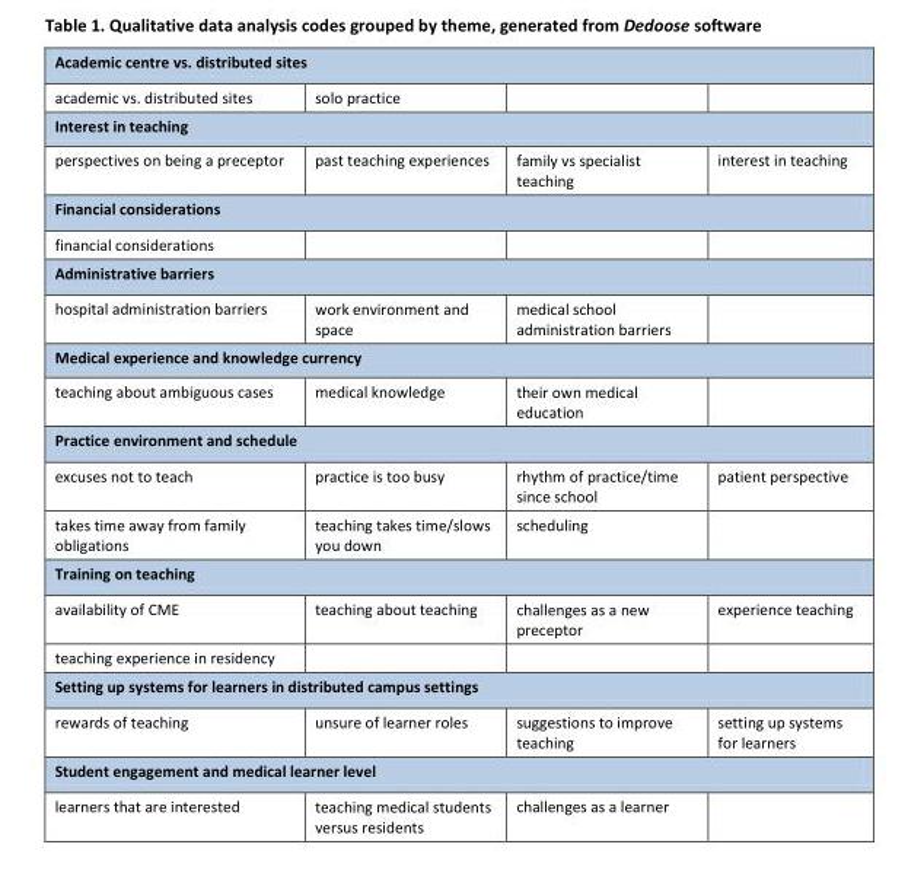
<table><tbody><tr><td colspan="4">Academic centre vs. distributed sites</td></tr><tr><td>academic vs. distributed sites</td><td>solo practice</td><td></td><td></td></tr><tr><td colspan="4">Interest in teaching</td></tr><tr><td>perspectives on being a preceptor</td><td>past teaching experiences</td><td>family vs specialist teaching</td><td>interest in teaching</td></tr><tr><td colspan="4">Financial considerations</td></tr><tr><td colspan="4">financial considerations</td></tr><tr><td colspan="4">Administrative barriers</td></tr><tr><td>hospital administration barriers</td><td>work environment and space</td><td>medical school administration barriers</td><td></td></tr><tr><td colspan="4">Medical experience and knowledge currency</td></tr><tr><td>teaching about ambiguous cases</td><td>medical knowledge</td><td>their own medical education</td><td></td></tr><tr><td colspan="4">Practice environment and schedule</td></tr><tr><td>excuses not to teach</td><td>practice is too busy</td><td>rhythm of practice/time since school</td><td>patient perspective</td></tr><tr><td>takes time away from family obligations</td><td>teaching takes time/slows you down</td><td>scheduling</td><td></td></tr><tr><td colspan="4">Training on teaching</td></tr><tr><td>availability of CME</td><td>teaching about teaching</td><td>challenges as a new preceptor</td><td>experience teaching</td></tr><tr><td colspan="4">teaching experience in residency</td></tr><tr><td colspan="4">Setting up systems for learners in distributed campus settings</td></tr><tr><td>rewards of teaching</td><td>unsure of learner roles</td><td>suggestions to improve teaching</td><td>setting up systems for learners</td></tr><tr><td colspan="4">Student engagement and medical learner level</td></tr><tr><td>learners that are interested</td><td>teaching medical students versus residents</td><td>challenges as a learner</td><td></td></tr></tbody></table>